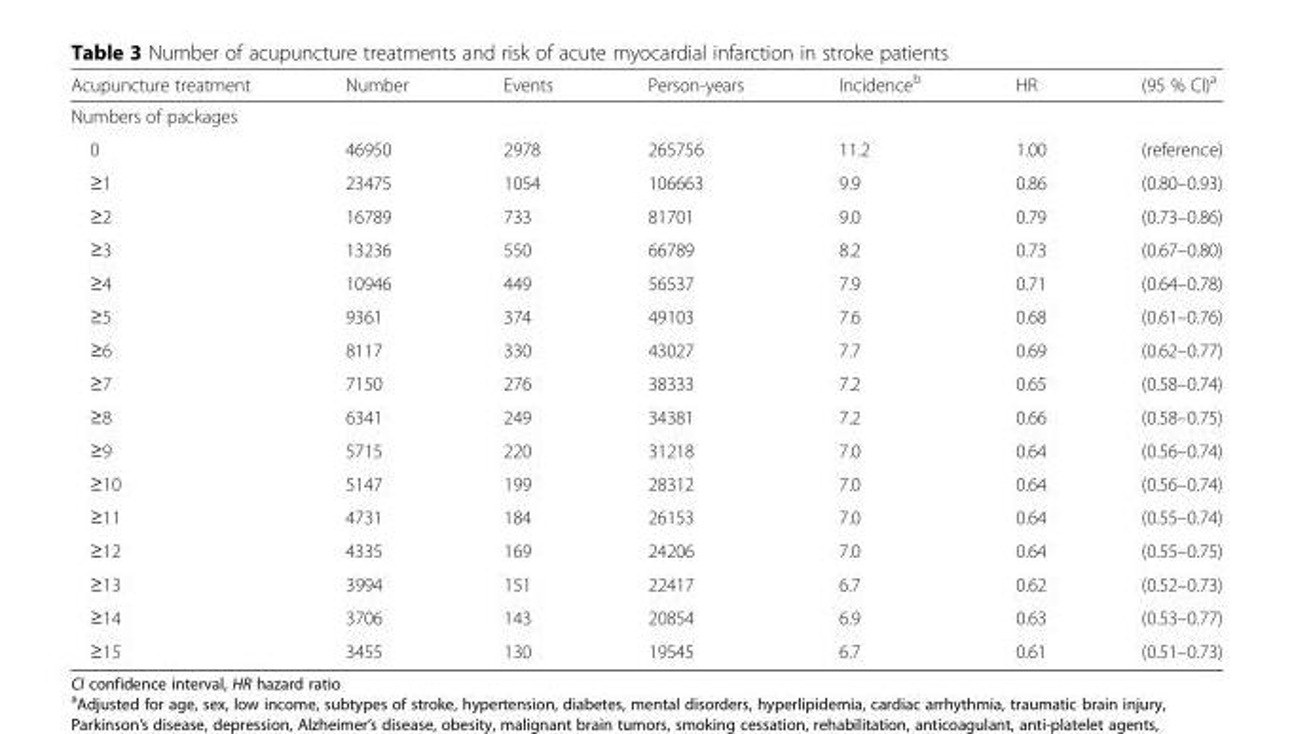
<table><thead><tr><td>Acupuncture treatment</td><td>Number</td><td>Events</td><td>Person-years</td><td>Incidence<sup>b</sup></td><td>HR</td><td>(95 % CI)<sup>a</sup></td></tr></thead><tbody><tr><td colspan="7">Numbers of packages</td></tr><tr><td>0</td><td>46950</td><td>2978</td><td>265756</td><td>11.2</td><td>1.00</td><td>(reference)</td></tr><tr><td>≥1</td><td>23475</td><td>1054</td><td>106663</td><td>9.9</td><td>0.86</td><td>(0.80–0.93)</td></tr><tr><td>≥2</td><td>16789</td><td>733</td><td>81701</td><td>9.0</td><td>0.79</td><td>(0.73–0.86)</td></tr><tr><td>≥3</td><td>13236</td><td>550</td><td>66789</td><td>8.2</td><td>0.73</td><td>(0.67–0.80)</td></tr><tr><td>≥4</td><td>10946</td><td>449</td><td>56537</td><td>7.9</td><td>0.71</td><td>(0.64–0.78)</td></tr><tr><td>≥5</td><td>9361</td><td>374</td><td>49103</td><td>7.6</td><td>0.68</td><td>(0.61–0.76)</td></tr><tr><td>≥6</td><td>8117</td><td>330</td><td>43027</td><td>7.7</td><td>0.69</td><td>(0.62–0.77)</td></tr><tr><td>≥7</td><td>7150</td><td>276</td><td>38333</td><td>7.2</td><td>0.65</td><td>(0.58–0.74)</td></tr><tr><td>≥8</td><td>6341</td><td>249</td><td>34381</td><td>7.2</td><td>0.66</td><td>(0.58–0.75)</td></tr><tr><td>≥9</td><td>5715</td><td>220</td><td>31218</td><td>7.0</td><td>0.64</td><td>(0.56–0.74)</td></tr><tr><td>≥10</td><td>5147</td><td>199</td><td>28312</td><td>7.0</td><td>0.64</td><td>(0.56–0.74)</td></tr><tr><td>≥11</td><td>4731</td><td>184</td><td>26153</td><td>7.0</td><td>0.64</td><td>(0.55–0.74)</td></tr><tr><td>≥12</td><td>4335</td><td>169</td><td>24206</td><td>7.0</td><td>0.64</td><td>(0.55–0.75)</td></tr><tr><td>≥13</td><td>3994</td><td>151</td><td>22417</td><td>6.7</td><td>0.62</td><td>(0.52–0.73)</td></tr><tr><td>≥14</td><td>3706</td><td>143</td><td>20854</td><td>6.9</td><td>0.63</td><td>(0.53–0.77)</td></tr><tr><td>≥15</td><td>3455</td><td>130</td><td>19545</td><td>6.7</td><td>0.61</td><td>(0.51–0.73)</td></tr></tbody></table>